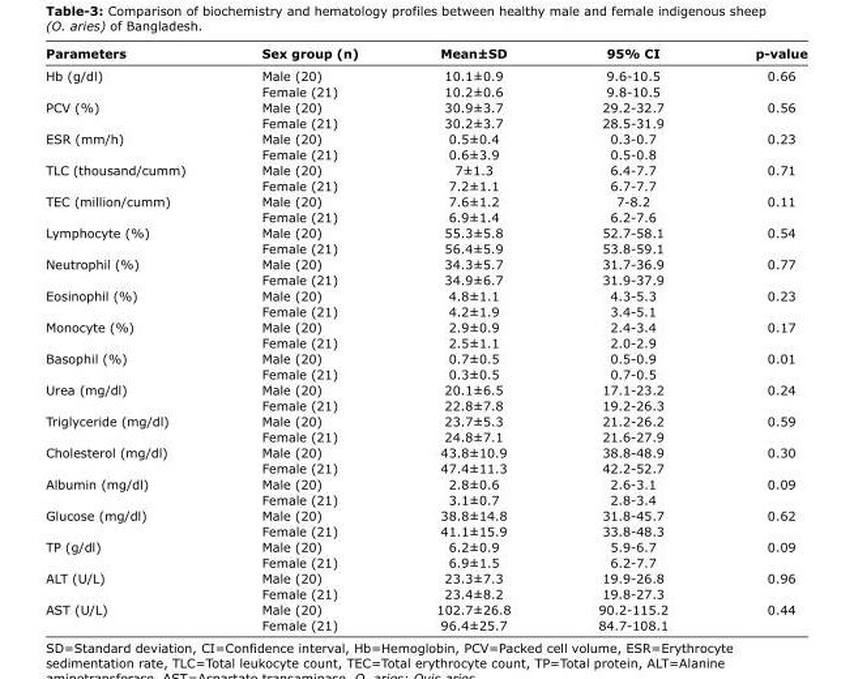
<table><thead><tr><td>Parameters</td><td>Sex group (n)</td><td>Mean±SD</td><td>95% CI</td><td>p-value</td></tr></thead><tbody><tr><td rowspan="2">Hb (g/dl)</td><td>Male (20)</td><td>10.1±0.9</td><td>9.6-10.5</td><td>0.66</td></tr><tr><td>Female (21)</td><td>10.2±0.6</td><td>9.8-10.5</td><td></td></tr><tr><td rowspan="2">PCV (%)</td><td>Male (20)</td><td>30.9±3.7</td><td>29.2-32.7</td><td>0.56</td></tr><tr><td>Female (21)</td><td>30.2±3.7</td><td>28.5-31.9</td><td></td></tr><tr><td rowspan="2">ESR (mm/h)</td><td>Male (20)</td><td>0.5±0.4</td><td>0.3-0.7</td><td>0.23</td></tr><tr><td>Female (21)</td><td>0.6±3.9</td><td>0.5-0.8</td><td></td></tr><tr><td rowspan="2">TLC (thousand/cumm)</td><td>Male (20)</td><td>7±1.3</td><td>6.4-7.7</td><td>0.71</td></tr><tr><td>Female (21)</td><td>7.2±1.1</td><td>6.7-7.7</td><td></td></tr><tr><td rowspan="2">TEC (million/cumm)</td><td>Male (20)</td><td>7.6±1.2</td><td>7-8.2</td><td>0.11</td></tr><tr><td>Female (21)</td><td>6.9±1.4</td><td>6.2-7.6</td><td></td></tr><tr><td rowspan="2">Lymphocyte (%)</td><td>Male (20)</td><td>55.3±5.8</td><td>52.7-58.1</td><td>0.54</td></tr><tr><td>Female (21)</td><td>56.4±5.9</td><td>53.8-59.1</td><td></td></tr><tr><td rowspan="2">Neutrophil (%)</td><td>Male (20)</td><td>34.3±5.7</td><td>31.7-36.9</td><td>0.77</td></tr><tr><td>Female (21)</td><td>34.9±6.7</td><td>31.9-37.9</td><td></td></tr><tr><td rowspan="2">Eosinophil (%)</td><td>Male (20)</td><td>4.8±1.1</td><td>4.3-5.3</td><td>0.23</td></tr><tr><td>Female (21)</td><td>4.2±1.9</td><td>3.4-5.1</td><td></td></tr><tr><td rowspan="2">Monocyte (%)</td><td>Male (20)</td><td>2.9±0.9</td><td>2.4-3.4</td><td>0.17</td></tr><tr><td>Female (21)</td><td>2.5±1.1</td><td>2.0-2.9</td><td></td></tr><tr><td rowspan="2">Basophil (%)</td><td>Male (20)</td><td>0.7±0.5</td><td>0.5-0.9</td><td>0.01</td></tr><tr><td>Female (21)</td><td>0.3±0.5</td><td>0.7-0.5</td><td></td></tr><tr><td rowspan="2">Urea (mg/dl)</td><td>Male (20)</td><td>20.1±6.5</td><td>17.1-23.2</td><td>0.24</td></tr><tr><td>Female (21)</td><td>22.8±7.8</td><td>19.2-26.3</td><td></td></tr><tr><td rowspan="2">Triglyceride (mg/dl)</td><td>Male (20)</td><td>23.7±5.3</td><td>21.2-26.2</td><td>0.59</td></tr><tr><td>Female (21)</td><td>24.8±7.1</td><td>21.6-27.9</td><td></td></tr><tr><td rowspan="2">Cholesterol (mg/dl)</td><td>Male (20)</td><td>43.8±10.9</td><td>38.8-48.9</td><td>0.30</td></tr><tr><td>Female (21)</td><td>47.4±11.3</td><td>42.2-52.7</td><td></td></tr><tr><td rowspan="2">Albumin (mg/dl)</td><td>Male (20)</td><td>2.8±0.6</td><td>2.6-3.1</td><td>0.09</td></tr><tr><td>Female (21)</td><td>3.1±0.7</td><td>2.8-3.4</td><td></td></tr><tr><td rowspan="2">Glucose (mg/dl)</td><td>Male (20)</td><td>38.8±14.8</td><td>31.8-45.7</td><td>0.62</td></tr><tr><td>Female (21)</td><td>41.1±15.9</td><td>33.8-48.3</td><td></td></tr><tr><td rowspan="2">TP (g/dl)</td><td>Male (20)</td><td>6.2±0.9</td><td>5.9-6.7</td><td>0.09</td></tr><tr><td>Female (21)</td><td>6.9±1.5</td><td>6.2-7.7</td><td></td></tr><tr><td rowspan="2">ALT (U/L)</td><td>Male (20)</td><td>23.3±7.3</td><td>19.9-26.8</td><td>0.96</td></tr><tr><td>Female (21)</td><td>23.4±8.2</td><td>19.8-27.3</td><td></td></tr><tr><td rowspan="2">AST (U/L)</td><td>Male (20)</td><td>102.7±26.8</td><td>90.2-115.2</td><td>0.44</td></tr><tr><td>Female (21)</td><td>96.4±25.7</td><td>84.7-108.1</td><td></td></tr></tbody></table>